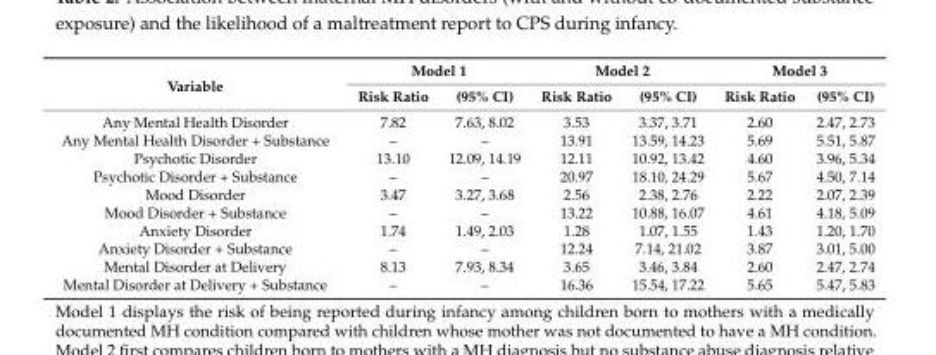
<table><thead><tr><td rowspan="2">Variable</td><td colspan="2">Model 1</td><td colspan="2">Model 2</td><td colspan="2">Model 3</td></tr><tr><td>Risk Ratio</td><td>(95% CI)</td><td>Risk Ratio</td><td>(95% CI)</td><td>Risk Ratio</td><td>(95% CI)</td></tr></thead><tbody><tr><td>Any Mental Health Disorder</td><td>7.82</td><td>7.63, 8.02</td><td>3.53</td><td>3.37, 3.71</td><td>2.60</td><td>2.47, 2.73</td></tr><tr><td>Any Mental Health Disorder + Substance</td><td>–</td><td>–</td><td>13.91</td><td>13.59, 14.23</td><td>5.69</td><td>5.51, 5.87</td></tr><tr><td>Psychotic Disorder</td><td>13.10</td><td>12.09, 14.19</td><td>12.11</td><td>10.92, 13.42</td><td>4.60</td><td>3.96, 5.34</td></tr><tr><td>Psychotic Disorder + Substance</td><td>–</td><td>–</td><td>20.97</td><td>18.10, 24.29</td><td>5.67</td><td>4.50, 7.14</td></tr><tr><td>Mood Disorder</td><td>3.47</td><td>3.27, 3.68</td><td>2.56</td><td>2.38, 2.76</td><td>2.22</td><td>2.07, 2.39</td></tr><tr><td>Mood Disorder + Substance</td><td>–</td><td>–</td><td>13.22</td><td>10.88, 16.07</td><td>4.61</td><td>4.18, 5.09</td></tr><tr><td>Anxiety Disorder</td><td>1.74</td><td>1.49, 2.03</td><td>1.28</td><td>1.07, 1.55</td><td>1.43</td><td>1.20, 1.70</td></tr><tr><td>Anxiety Disorder + Substance</td><td>–</td><td>–</td><td>12.24</td><td>7.14, 21.02</td><td>3.87</td><td>3.01, 5.00</td></tr><tr><td>Mental Disorder at Delivery</td><td>8.13</td><td>7.93, 8.34</td><td>3.65</td><td>3.46, 3.84</td><td>2.60</td><td>2.47, 2.74</td></tr><tr><td>Mental Disorder at Delivery + Substance</td><td>–</td><td>–</td><td>16.36</td><td>15.54, 17.22</td><td>5.65</td><td>5.47, 5.83</td></tr></tbody></table>